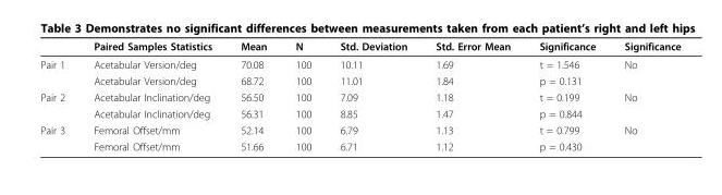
<table><thead><tr><td></td><td>Paired Samples Statistics</td><td>Mean</td><td>N</td><td>Std. Deviation</td><td>Std. Error Mean</td><td>Significance</td><td>Significance</td></tr></thead><tbody><tr><td rowspan="2">Pair 1</td><td>Acetabular Version/deg</td><td>70.08</td><td>100</td><td>10.11</td><td>1.69</td><td>t = 1.546</td><td>No</td></tr><tr><td>Acetabular Version/deg</td><td>68.72</td><td>100</td><td>11.01</td><td>1.84</td><td>p = 0.131</td><td></td></tr><tr><td rowspan="2">Pair 2</td><td>Acetabular Inclination/deg</td><td>56.50</td><td>100</td><td>7.09</td><td>1.18</td><td>t = 0.199</td><td>No</td></tr><tr><td>Acetabular Inclination/deg</td><td>56.31</td><td>100</td><td>8.85</td><td>1.47</td><td>p = 0.844</td><td></td></tr><tr><td rowspan="2">Pair 3</td><td>Femoral Offset/mm</td><td>52.14</td><td>100</td><td>6.79</td><td>1.13</td><td>t = 0.799</td><td>No</td></tr><tr><td>Femoral Offset/mm</td><td>51.66</td><td>100</td><td>6.71</td><td>1.12</td><td>p = 0.430</td><td></td></tr></tbody></table>